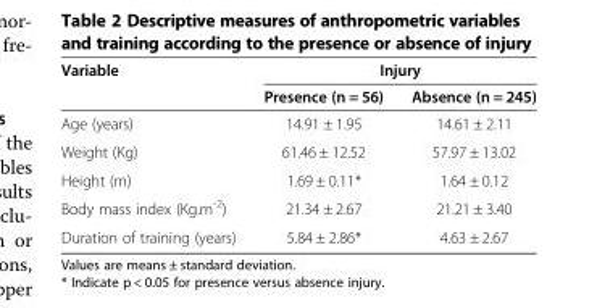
<table><thead><tr><td rowspan="2">Variable</td><td colspan="2">Injury</td></tr><tr><td>Presence (n = 56)</td><td>Absence (n = 245)</td></tr></thead><tbody><tr><td>Age (years)</td><td>14.91 ± 1.95</td><td>14.61 ± 2.11</td></tr><tr><td>Weight (Kg)</td><td>61.46 ± 12.52</td><td>57.97 ± 13.02</td></tr><tr><td>Height (m)</td><td>1.69 ± 0.11*</td><td>1.64 ± 0.12</td></tr><tr><td>Body mass index (Kg.m<sup>-2</sup>)</td><td>21.34 ± 2.67</td><td>21.21 ± 3.40</td></tr><tr><td>Duration of training (years)</td><td>5.84 ± 2.86*</td><td>4.63 ± 2.67</td></tr></tbody></table>